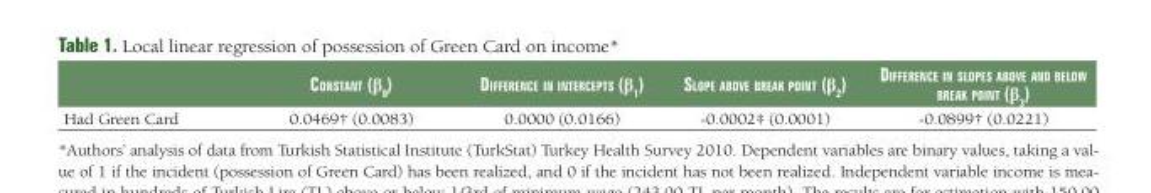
<table><thead><tr><td></td><td>Constant (β<sub>0</sub>)</td><td>DifferenCe in interCepts (β<sub>1</sub>)</td><td>slope above break point (β<sub>2</sub>)</td><td>DifferenCe in slopes above anD below break point (β<sub>3</sub>)</td></tr></thead><tbody><tr><td>Had Green Card</td><td>0.0469† (0.0083)</td><td>0.0000 (0.0166)</td><td>-0.0002‡ (0.0001)</td><td>-0.0899† (0.0221)</td></tr></tbody></table>